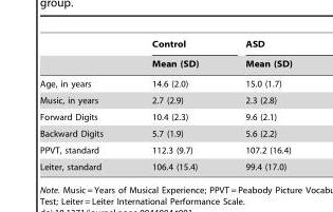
<table><thead><tr><td rowspan="2"></td><td rowspan="2">Control Mean (SD)</td><td rowspan="2">ASD Mean (SD)</td></tr><tr></tr></thead><tbody><tr><td>Age, in years</td><td>14.6 (2.0)</td><td>15.0 (1.7)</td></tr><tr><td>Music, in years</td><td>2.7 (2.9)</td><td>2.3 (2.8)</td></tr><tr><td>Forward Digits</td><td>10.4 (2.3)</td><td>9.6 (2.1)</td></tr><tr><td>Backward Digits</td><td>5.7 (1.9)</td><td>5.6 (2.2)</td></tr><tr><td>PPVT, standard</td><td>112.3 (9.7)</td><td>107.2 (16.4)</td></tr><tr><td>Leiter, standard</td><td>106.4 (15.4)</td><td>99.4 (17.0)</td></tr></tbody></table>